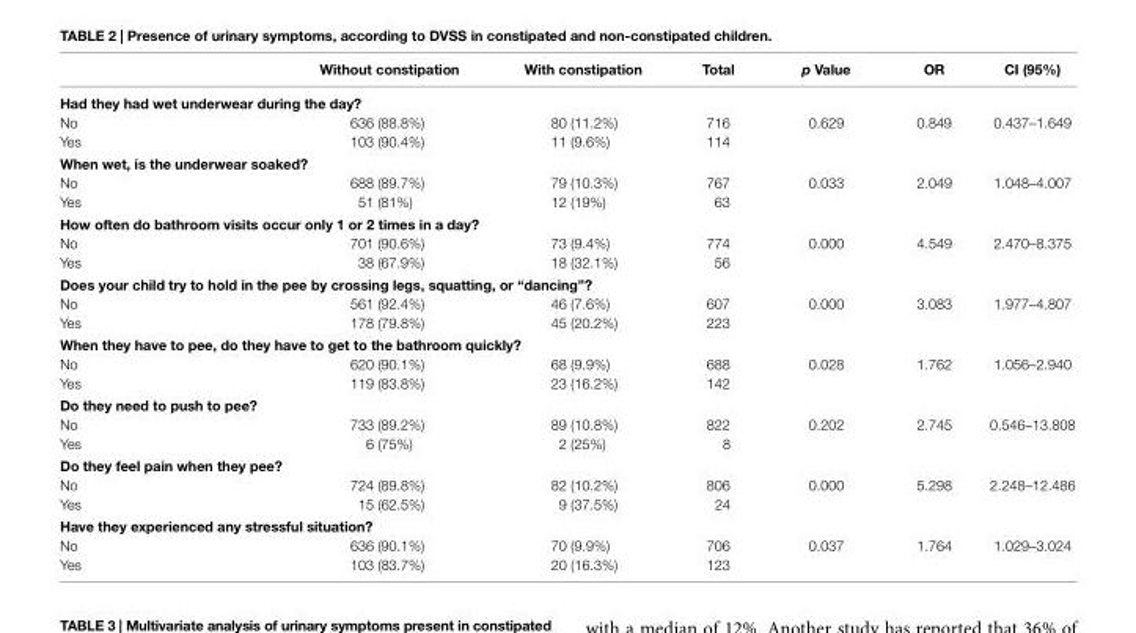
<table><thead><tr><td></td><td>Without constipation</td><td>With constipation</td><td>Total</td><td>p Value</td><td>Or</td><td>ci (95%)</td></tr></thead><tbody><tr><td colspan="7">had they had wet underwear during the day?</td></tr><tr><td>No</td><td>636 (88.8%)</td><td>80 (11.2%)</td><td>716</td><td rowspan="2">0.629</td><td rowspan="2">0.849</td><td rowspan="2">0.437–1.649</td></tr><tr><td>Yes</td><td>103 (90.4%)</td><td>11 (9.6%)</td><td>114</td></tr><tr><td colspan="7">When wet, is the underwear soaked?</td></tr><tr><td>No</td><td>688 (89.7%)</td><td>79 (10.3%)</td><td>767</td><td rowspan="2">0.033</td><td rowspan="2">2.049</td><td rowspan="2">1.048–4.007</td></tr><tr><td>Yes</td><td>51 (81%)</td><td>12 (19%)</td><td>63</td></tr><tr><td colspan="7">how often do bathroom visits occur only 1 or 2 times in a day?</td></tr><tr><td>No</td><td>701 (90.6%)</td><td>73 (9.4%)</td><td>774</td><td rowspan="2">0.000</td><td rowspan="2">4.549</td><td rowspan="2">2.470–8.375</td></tr><tr><td>Yes</td><td>38 (67.9%)</td><td>18 (32.1%)</td><td>56</td></tr><tr><td colspan="7">Does your child try to hold in the pee by crossing legs, squatting, or “dancing”?</td></tr><tr><td>No</td><td>561 (92.4%)</td><td>46 (7.6%)</td><td>607</td><td rowspan="2">0.000</td><td rowspan="2">3.083</td><td rowspan="2">1.977–4.807</td></tr><tr><td>Yes</td><td>178 (79.8%)</td><td>45 (20.2%)</td><td>223</td></tr><tr><td colspan="7">When they have to pee, do they have to get to the bathroom quickly?</td></tr><tr><td>No</td><td>620 (90.1%)</td><td>68 (9.9%)</td><td>688</td><td rowspan="2">0.028</td><td rowspan="2">1.762</td><td rowspan="2">1.056–2.940</td></tr><tr><td>Yes</td><td>119 (83.8%)</td><td>23 (16.2%)</td><td>142</td></tr><tr><td colspan="7">Do they need to push to pee?</td></tr><tr><td>No</td><td>733 (89.2%)</td><td>89 (10.8%)</td><td>822</td><td rowspan="2">0.202</td><td rowspan="2">2.745</td><td rowspan="2">0.546–13.808</td></tr><tr><td>Yes</td><td>6 (75%)</td><td>2 (25%)</td><td>8</td></tr><tr><td colspan="7">Do they feel pain when they pee?</td></tr><tr><td>No</td><td>724 (89.8%)</td><td>82 (10.2%)</td><td>806</td><td rowspan="2">0.000</td><td rowspan="2">5.298</td><td rowspan="2">2.248–12.486</td></tr><tr><td>Yes</td><td>15 (62.5%)</td><td>9 (37.5%)</td><td>24</td></tr><tr><td colspan="7">have they experienced any stressful situation?</td></tr><tr><td>No</td><td>636 (90.1%)</td><td>70 (9.9%)</td><td>706</td><td rowspan="2">0.037</td><td rowspan="2">1.764</td><td rowspan="2">1.029–3.024</td></tr><tr><td>Yes</td><td>103 (83.7%)</td><td>20 (16.3%)</td><td>123</td></tr></tbody></table>